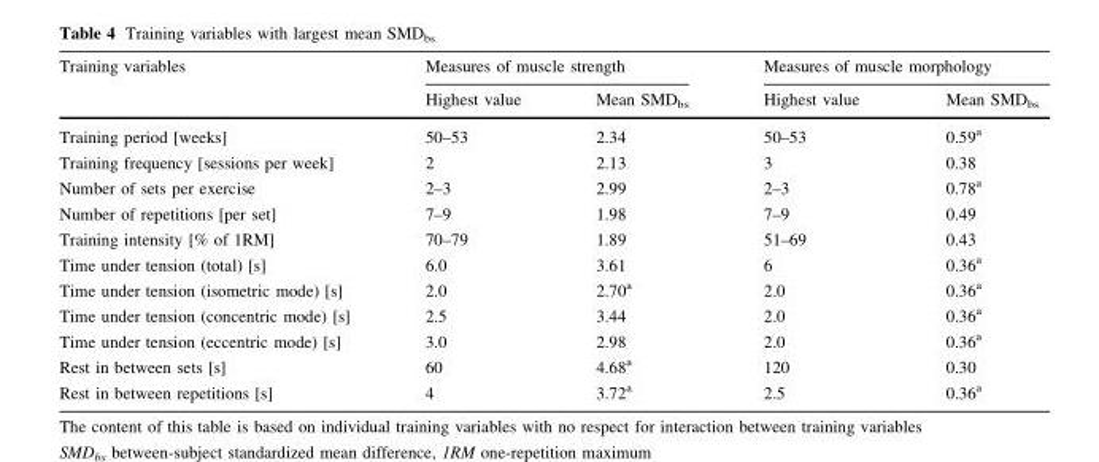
<table><thead><tr><td rowspan="2">Training variables</td><td colspan="2">Measures of muscle strength</td><td colspan="2">Measures of muscle morphology</td></tr><tr><td>Highest value</td><td>Mean SMD<sub>bs</sub></td><td>Highest value</td><td>Mean SMD<sub>bs</sub></td></tr></thead><tbody><tr><td>Training period [weeks]</td><td>50–53</td><td>2.34</td><td>50–53</td><td>0.59<sup>a</sup></td></tr><tr><td>Training frequency [sessions per week]</td><td>2</td><td>2.13</td><td>3</td><td>0.38</td></tr><tr><td>Number of sets per exercise</td><td>2–3</td><td>2.99</td><td>2–3</td><td>0.78<sup>a</sup></td></tr><tr><td>Number of repetitions [per set]</td><td>7–9</td><td>1.98</td><td>7–9</td><td>0.49</td></tr><tr><td>Training intensity [% of 1RM]</td><td>70–79</td><td>1.89</td><td>51–69</td><td>0.43</td></tr><tr><td>Time under tension (total) [s]</td><td>6.0</td><td>3.61</td><td>6</td><td>0.36<sup>a</sup></td></tr><tr><td>Time under tension (isometric mode) [s]</td><td>2.0</td><td>2.70<sup>a</sup></td><td>2.0</td><td>0.36<sup>a</sup></td></tr><tr><td>Time under tension (concentric mode) [s]</td><td>2.5</td><td>3.44</td><td>2.0</td><td>0.36<sup>a</sup></td></tr><tr><td>Time under tension (eccentric mode) [s]</td><td>3.0</td><td>2.98</td><td>2.0</td><td>0.36<sup>a</sup></td></tr><tr><td>Rest in between sets [s]</td><td>60</td><td>4.68<sup>a</sup></td><td>120</td><td>0.30</td></tr><tr><td>Rest in between repetitions [s]</td><td>4</td><td>3.72<sup>a</sup></td><td>2.5</td><td>0.36<sup>a</sup></td></tr></tbody></table>